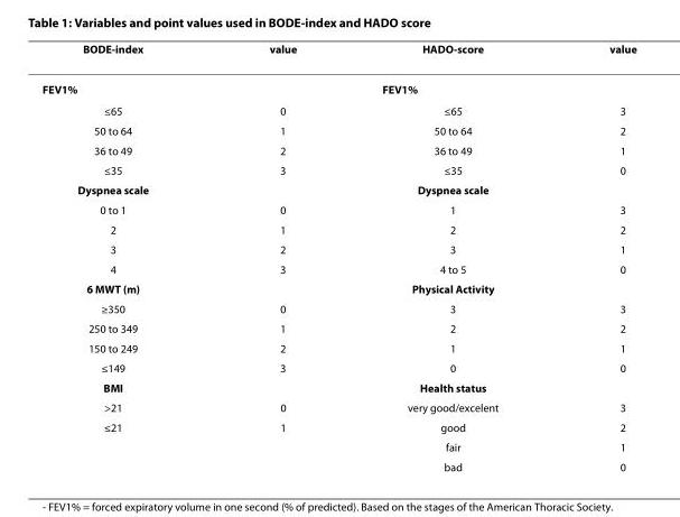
<table><thead><tr><td>BODE-index</td><td>value</td><td>HADO-score</td><td>value</td></tr></thead><tbody><tr><td>FEV<sub>1</sub>%</td><td></td><td>FEV<sub>1</sub>%</td><td></td></tr><tr><td>≤65</td><td>0</td><td>≤65</td><td>3</td></tr><tr><td>50 to 64</td><td>1</td><td>50 to 64</td><td>2</td></tr><tr><td>36 to 49</td><td>2</td><td>36 to 49</td><td>1</td></tr><tr><td>≤35</td><td>3</td><td>≤35</td><td>0</td></tr><tr><td>Dyspnea scale</td><td></td><td>Dyspnea scale</td><td></td></tr><tr><td>0 to 1</td><td>0</td><td>1</td><td>3</td></tr><tr><td>2</td><td>1</td><td>2</td><td>2</td></tr><tr><td>3</td><td>2</td><td>3</td><td>1</td></tr><tr><td>4</td><td>3</td><td>4 to 5</td><td>0</td></tr><tr><td>6 MWT (m)</td><td></td><td>Physical Activity</td><td></td></tr><tr><td>≥350</td><td>0</td><td>3</td><td>3</td></tr><tr><td>250 to 349</td><td>1</td><td>2</td><td>2</td></tr><tr><td>150 to 249</td><td>2</td><td>1</td><td>1</td></tr><tr><td>≤149</td><td>3</td><td>0</td><td>0</td></tr><tr><td>BMI</td><td></td><td>Health status</td><td></td></tr><tr><td>&gt;21</td><td>0</td><td>very good/excelent</td><td>3</td></tr><tr><td rowspan="3">≤21</td><td>1</td><td>good</td><td>2</td></tr><tr><td></td><td>fair</td><td>1</td></tr><tr><td></td><td>bad</td><td>0</td></tr></tbody></table>